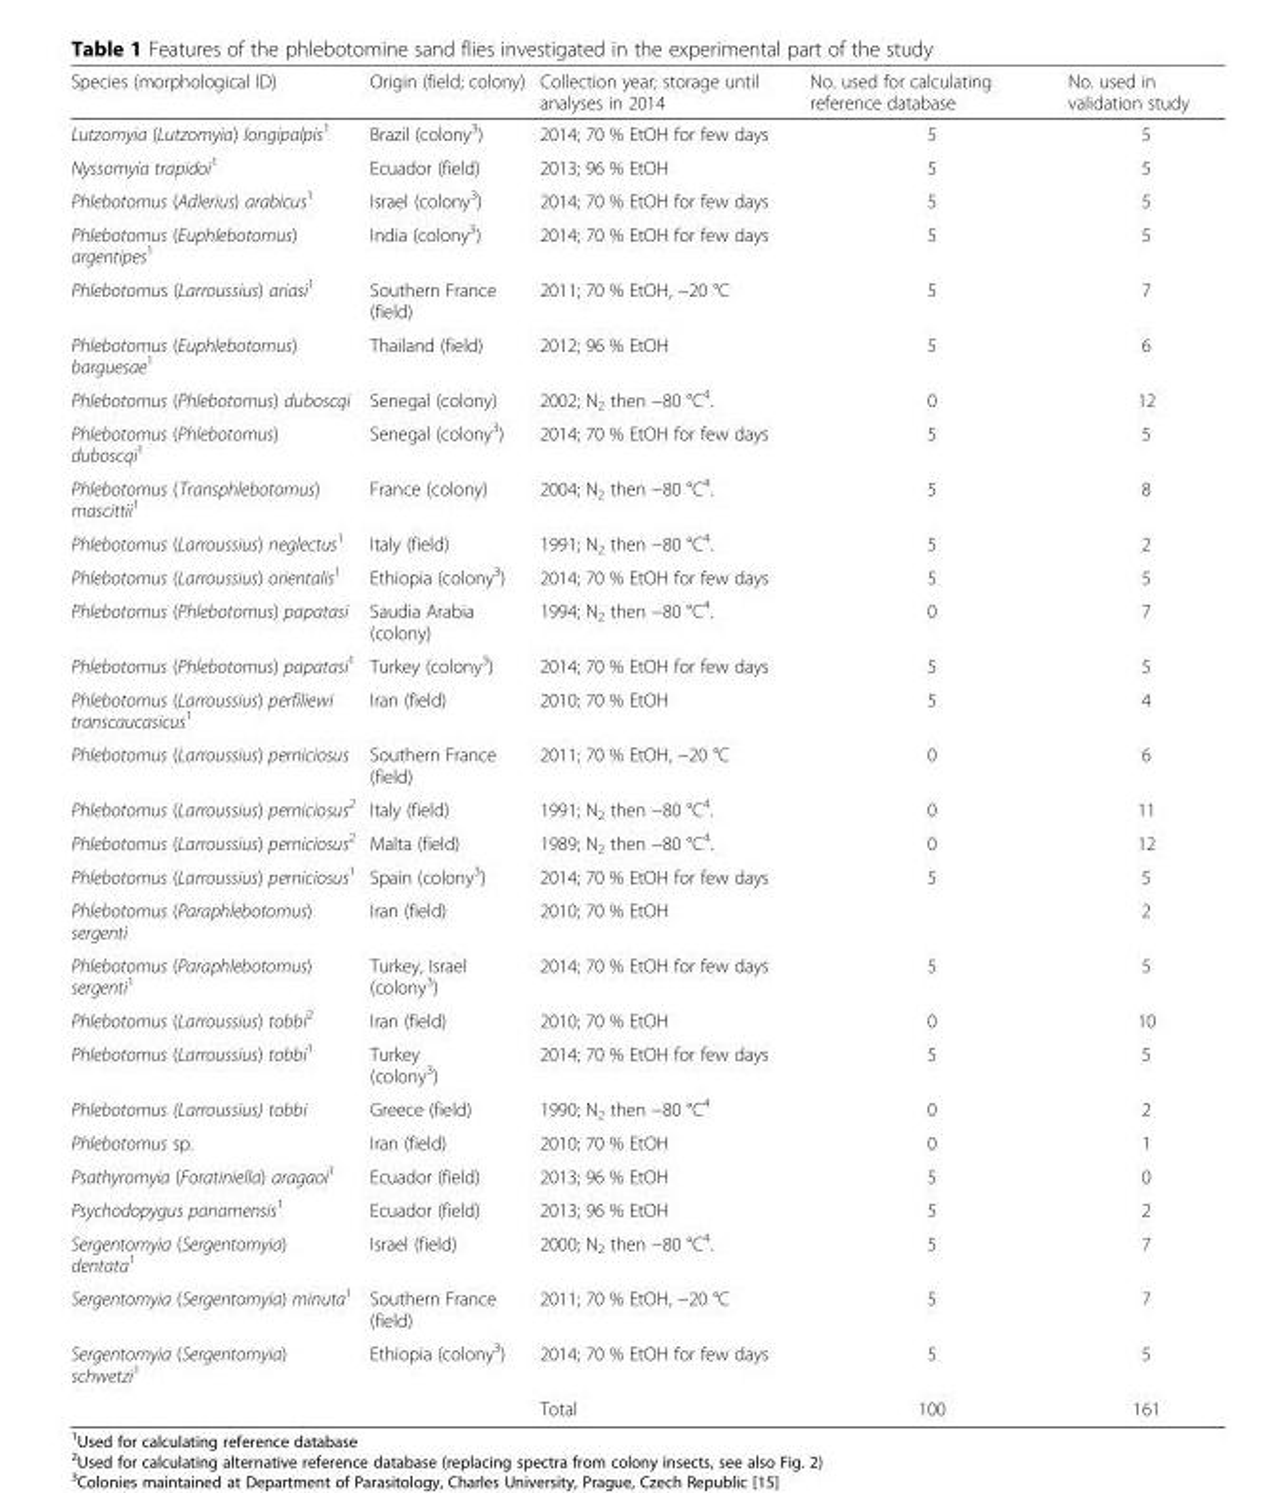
<table><thead><tr><td>Species (morphological ID)</td><td>Origin (field; colony)</td><td>Collection year; storage until analyses in 2014</td><td>No. used for calculating reference database</td><td>No. used in validation study</td></tr></thead><tbody><tr><td>Lutzomyia (Lutzomyia) longipalpis<sup>1</sup></td><td>Brazil (colony<sup>3</sup>)</td><td>2014; 70 % EtOH for few days</td><td>5</td><td>5</td></tr><tr><td>Nyssomyia trapidoi<sup>1</sup></td><td>Ecuador (field)</td><td>2013; 96 % EtOH</td><td>5</td><td>5</td></tr><tr><td>Phlebotomus (Adlerius) arabicus<sup>1</sup></td><td>Israel (colony<sup>3</sup>)</td><td>2014; 70 % EtOH for few days</td><td>5</td><td>5</td></tr><tr><td>Phlebotomus (Euphlebotomus) argentipes<sup>1</sup></td><td>India (colony<sup>3</sup>)</td><td>2014; 70 % EtOH for few days</td><td>5</td><td>5</td></tr><tr><td>Phlebotomus (Larroussius) ariasi<sup>1</sup></td><td>Southern France (field)</td><td>2011; 70 % EtOH, −20 °C</td><td>5</td><td>7</td></tr><tr><td>Phlebotomus (Euphlebotomus) barguesae<sup>1</sup></td><td>Thailand (field)</td><td>2012; 96 % EtOH</td><td>5</td><td>6</td></tr><tr><td>Phlebotomus (Phlebotomus) duboscqi</td><td>Senegal (colony)</td><td>2002; N<sub>2</sub> then −80 °C<sup>4</sup>.</td><td>0</td><td>12</td></tr><tr><td>Phlebotomus (Phlebotomus) duboscqi<sup>1</sup></td><td>Senegal (colony<sup>3</sup>)</td><td>2014; 70 % EtOH for few days</td><td>5</td><td>5</td></tr><tr><td>Phlebotomus (Transphlebotomus) mascittii<sup>1</sup></td><td>France (colony)</td><td>2004; N<sub>2</sub> then −80 °C<sup>4</sup>.</td><td>5</td><td>8</td></tr><tr><td>Phlebotomus (Larroussius) neglectus<sup>1</sup></td><td>Italy (field)</td><td>1991; N<sub>2</sub> then −80 °C<sup>4</sup>.</td><td>5</td><td>2</td></tr><tr><td>Phlebotomus (Larroussius) orientalis<sup>1</sup></td><td>Ethiopia (colony<sup>3</sup>)</td><td>2014; 70 % EtOH for few days</td><td>5</td><td>5</td></tr><tr><td>Phlebotomus (Phlebotomus) papatasi</td><td>Saudia Arabia (colony)</td><td>1994; N<sub>2</sub> then −80 °C<sup>4</sup>.</td><td>0</td><td>7</td></tr><tr><td>Phlebotomus (Phlebotomus) papatasi<sup>1</sup></td><td>Turkey (colony<sup>3</sup>)</td><td>2014; 70 % EtOH for few days</td><td>5</td><td>5</td></tr><tr><td>Phlebotomus (Larroussius) perfiliewi transcaucasicus<sup>1</sup></td><td>Iran (field)</td><td>2010; 70 % EtOH</td><td>5</td><td>4</td></tr><tr><td>Phlebotomus (Larroussius) perniciosus</td><td>Southern France (field)</td><td>2011; 70 % EtOH, −20 °C</td><td>0</td><td>6</td></tr><tr><td>Phlebotomus (Larroussius) perniciosus<sup>2</sup></td><td>Italy (field)</td><td>1991; N<sub>2</sub> then −80 °C<sup>4</sup>.</td><td>0</td><td>11</td></tr><tr><td>Phlebotomus (Larroussius) perniciosus<sup>2</sup></td><td>Malta (field)</td><td>1989; N<sub>2</sub> then −80 °C<sup>4</sup>.</td><td>0</td><td>12</td></tr><tr><td>Phlebotomus (Larroussius) perniciosus<sup>1</sup></td><td>Spain (colony<sup>3</sup>)</td><td>2014; 70 % EtOH for few days</td><td>5</td><td>5</td></tr><tr><td>Phlebotomus (Paraphlebotomus) sergenti</td><td>Iran (field)</td><td>2010; 70 % EtOH</td><td></td><td>2</td></tr><tr><td>Phlebotomus (Paraphlebotomus) sergenti<sup>1</sup></td><td>Turkey, Israel (colony<sup>3</sup>)</td><td>2014; 70 % EtOH for few days</td><td>5</td><td>5</td></tr><tr><td>Phlebotomus (Larroussius) tobbi<sup>2</sup></td><td>Iran (field)</td><td>2010; 70 % EtOH</td><td>0</td><td>10</td></tr><tr><td>Phlebotomus (Larroussius) tobbi<sup>1</sup></td><td>Turkey (colony<sup>3</sup>)</td><td>2014; 70 % EtOH for few days</td><td>5</td><td>5</td></tr><tr><td>Phlebotomus (Larroussius) tobbi</td><td>Greece (field)</td><td>1990; N<sub>2</sub> then −80 °C<sup>4</sup></td><td>0</td><td>2</td></tr><tr><td>Phlebotomus sp.</td><td>Iran (field)</td><td>2010; 70 % EtOH</td><td>0</td><td>1</td></tr><tr><td>Psathyromyia (Foratiniella) aragaoi<sup>1</sup></td><td>Ecuador (field)</td><td>2013; 96 % EtOH</td><td>5</td><td>0</td></tr><tr><td>Psychodopygus panamensis<sup>1</sup></td><td>Ecuador (field)</td><td>2013; 96 % EtOH</td><td>5</td><td>2</td></tr><tr><td>Sergentomyia (Sergentomyia) dentata<sup>1</sup></td><td>Israel (field)</td><td>2000; N<sub>2</sub> then −80 °C<sup>4</sup>.</td><td>5</td><td>7</td></tr><tr><td>Sergentomyia (Sergentomyia) minuta<sup>1</sup></td><td>Southern France (field)</td><td>2011; 70 % EtOH, −20 °C</td><td>5</td><td>7</td></tr><tr><td rowspan="2">Sergentomyia (Sergentomyia) schwetzi<sup>1</sup></td><td>Ethiopia (colony<sup>3</sup>)</td><td>2014; 70 % EtOH for few days</td><td>5</td><td>5</td></tr><tr><td></td><td>Total</td><td>100</td><td>161</td></tr></tbody></table>